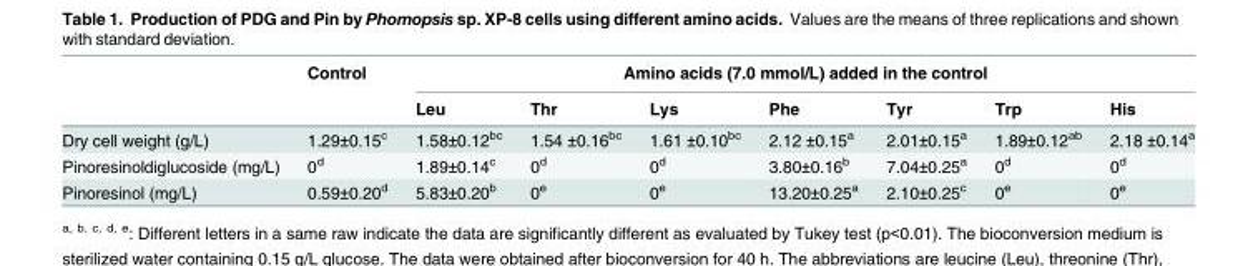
<table><thead><tr><td rowspan="2"></td><td rowspan="2">Control</td><td colspan="7">Amino acids (7.0 mmol/L) added in the control</td></tr><tr><td>Leu</td><td>Thr</td><td>Lys</td><td>Phe</td><td>Tyr</td><td>Trp</td><td>His</td></tr></thead><tbody><tr><td>Dry cell weight (g/L)</td><td>1.29±0.15<sup>c</sup></td><td>1.58±0.12<sup>bc</sup></td><td>1.54 ±0.16<sup>bc</sup></td><td>1.61 ±0.10<sup>bc</sup></td><td>2.12 ±0.15<sup>a</sup></td><td>2.01±0.15<sup>a</sup></td><td>1.89±0.12<sup>ab</sup></td><td>2.18 ±0.14<sup>a</sup></td></tr><tr><td>Pinoresinoldiglucoside (mg/L)</td><td>0<sup>d</sup></td><td>1.89±0.14<sup>c</sup></td><td>0<sup>d</sup></td><td>0<sup>d</sup></td><td>3.80±0.16<sup>b</sup></td><td>7.04±0.25<sup>a</sup></td><td>0<sup>d</sup></td><td>0<sup>d</sup></td></tr><tr><td>Pinoresinol (mg/L)</td><td>0.59±0.20<sup>d</sup></td><td>5.83±0.20<sup>b</sup></td><td>0<sup>e</sup></td><td>0<sup>e</sup></td><td>13.20±0.25<sup>a</sup></td><td>2.10±0.25<sup>c</sup></td><td>0<sup>e</sup></td><td>0<sup>e</sup></td></tr></tbody></table>